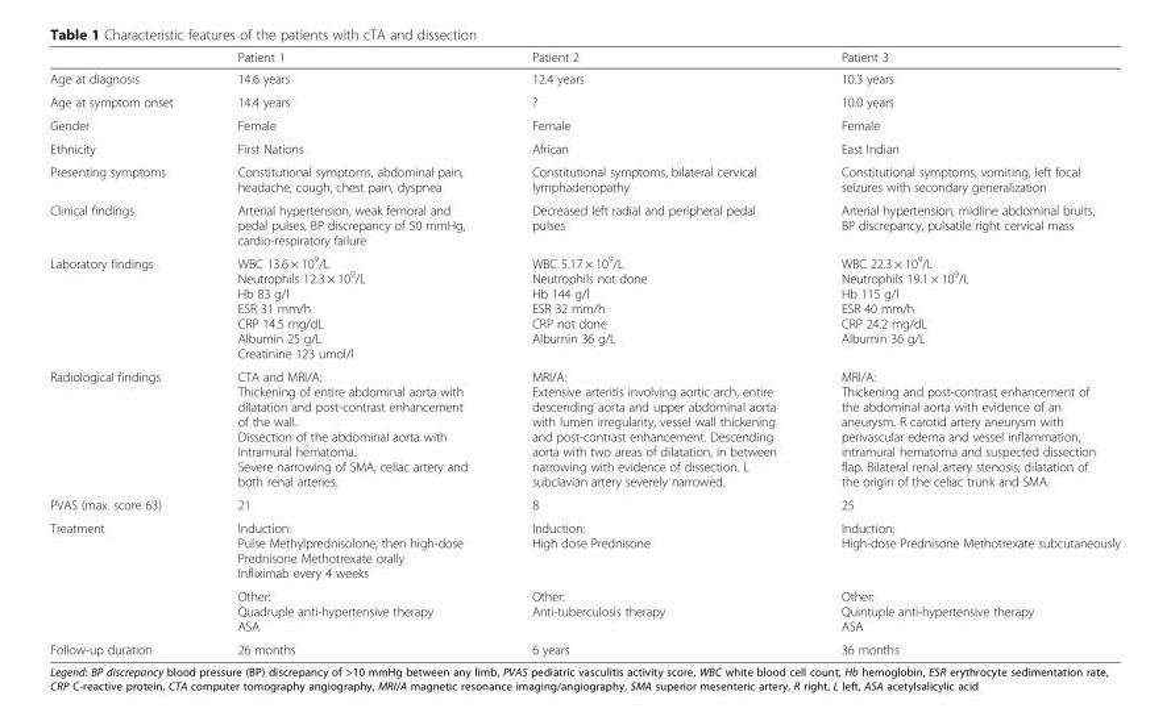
<table><thead><tr><td></td><td>Patient 1</td><td>Patient 2</td><td>Patient 3</td></tr></thead><tbody><tr><td>Age at diagnosis</td><td>14.6 years</td><td>12.4 years</td><td>10.3 years</td></tr><tr><td>Age at symptom onset</td><td>14.4 years</td><td>?</td><td>10.0 years</td></tr><tr><td>Gender</td><td>Female</td><td>Female</td><td>Female</td></tr><tr><td>Ethnicity</td><td>First Nations</td><td>African</td><td>East Indian</td></tr><tr><td>Presenting symptoms</td><td>Constitutional symptoms, abdominal pain, headache, cough, chest pain, dyspnea</td><td>Constitutional symptoms, bilateral cervical lymphadenopathy</td><td>Constitutional symptoms, vomiting, left focal seizures with secondary generalization</td></tr><tr><td>Clinical findings</td><td>Arterial hypertension, weak femoral and pedal pulses, BP discrepancy of 50 mmHg, cardio-respiratory failure</td><td>Decreased left radial and peripheral pedal pulses</td><td>Arterial hypertension, midline abdominal bruits, BP discrepancy, pulsatile right cervical mass</td></tr><tr><td>Laboratory findings</td><td>WBC 13.6 × 10<sup>9</sup>/L Neutrophils 12.3 × 10<sup>9</sup>/L Hb 83 g/l ESR 31 mm/h CRP 14.5 mg/dL Albumin 25 g/L Creatinine 123 umol/l</td><td>WBC 5.17 × 10<sup>9</sup>/L Neutrophils not done Hb 144 g/l ESR 32 mm/h CRP not done Albumin 36 g/L</td><td>WBC 22.3 × 10<sup>9</sup>/L Neutrophils 19.1 × 10<sup>9</sup>/L Hb 115 g/l ESR 40 mm/h CRP 24.2 mg/dL Albumin 36 g/L</td></tr><tr><td>Radiological findings</td><td>CTA and MRI/A: Thickening of entire abdominal aorta with dilatation and post-contrast enhancement of the wall. Dissection of the abdominal aorta with intramural hematoma. Severe narrowing of SMA, celiac artery and both renal arteries.</td><td>MRI/A: Extensive arteritis involving aortic arch, entire descending aorta and upper abdominal aorta with lumen irregularity, vessel wall thickening and post-contrast enhancement. Descending aorta with two areas of dilatation, in between narrowing with evidence of dissection. L subclavian artery severely narrowed.</td><td>MRI/A: Thickening and post-contrast enhancement of the abdominal aorta with evidence of an aneurysm. R carotid artery aneurysm with perivascular edema and vessel inflammation, intramural hematoma and suspected dissection flap. Bilateral renal artery stenosis; dilatation of the origin of the celiac trunk and SMA.</td></tr><tr><td>PVAS (max. score 63)</td><td>21</td><td>8</td><td>25</td></tr><tr><td rowspan="2">Treatment</td><td>Induction: Pulse Methylprednisolone, then high-dose Prednisone Methotrexate orally Infliximab every 4 weeks</td><td>Induction: High dose Prednisone</td><td>Induction: High-dose Prednisone Methotrexate subcutaneously</td></tr><tr><td>Other: Quadruple anti-hypertensive therapy ASA</td><td>Other: Anti-tuberculosis therapy</td><td>Other: Quintuple anti-hypertensive therapy ASA</td></tr><tr><td>Follow-up duration</td><td>26 months</td><td>6 years</td><td>36 months</td></tr></tbody></table>